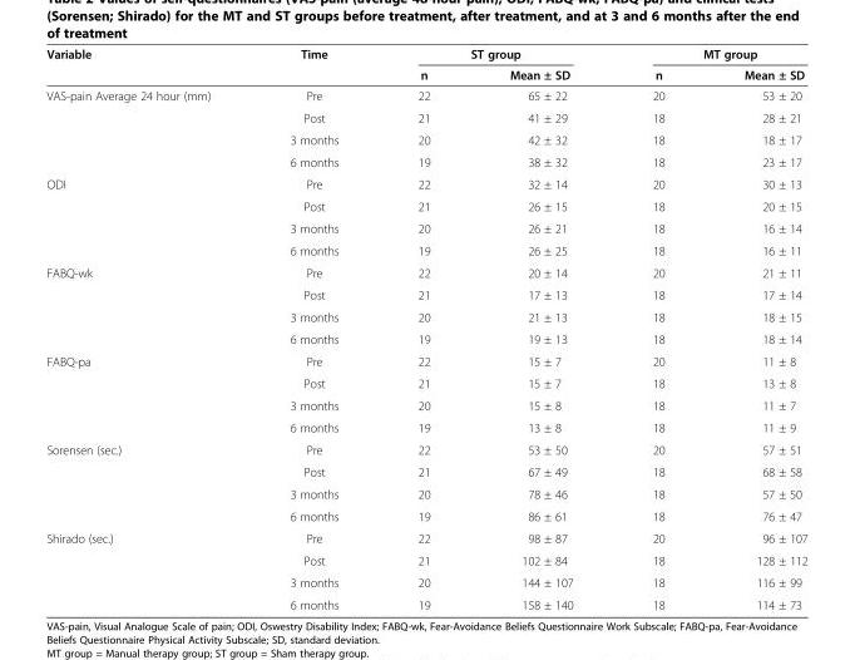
<table><thead><tr><td rowspan="2">Variable</td><td rowspan="2">Time</td><td colspan="2">ST group</td><td colspan="2">MT group</td></tr><tr><td>n</td><td>Mean ± SD</td><td>n</td><td>Mean ± SD</td></tr></thead><tbody><tr><td rowspan="4">VAS-pain Average 24 hour (mm)</td><td>Pre</td><td>22</td><td>65 ± 22</td><td>20</td><td>53 ± 20</td></tr><tr><td>Post</td><td>21</td><td>41 ± 29</td><td>18</td><td>28 ± 21</td></tr><tr><td>3 months</td><td>20</td><td>42 ± 32</td><td>18</td><td>18 ± 17</td></tr><tr><td>6 months</td><td>19</td><td>38 ± 32</td><td>18</td><td>23 ± 17</td></tr><tr><td rowspan="4">ODI</td><td>Pre</td><td>22</td><td>32 ± 14</td><td>20</td><td>30 ± 13</td></tr><tr><td>Post</td><td>21</td><td>26 ± 15</td><td>18</td><td>20 ± 15</td></tr><tr><td>3 months</td><td>20</td><td>26 ± 21</td><td>18</td><td>16 ± 14</td></tr><tr><td>6 months</td><td>19</td><td>26 ± 25</td><td>18</td><td>16 ± 11</td></tr><tr><td rowspan="4">FABQ-wk</td><td>Pre</td><td>22</td><td>20 ± 14</td><td>20</td><td>21 ± 11</td></tr><tr><td>Post</td><td>21</td><td>17 ± 13</td><td>18</td><td>17 ± 14</td></tr><tr><td>3 months</td><td>20</td><td>21 ± 13</td><td>18</td><td>18 ± 15</td></tr><tr><td>6 months</td><td>19</td><td>19 ± 13</td><td>18</td><td>18 ± 14</td></tr><tr><td rowspan="4">FABQ-pa</td><td>Pre</td><td>22</td><td>15 ± 7</td><td>20</td><td>11 ± 8</td></tr><tr><td>Post</td><td>21</td><td>15 ± 7</td><td>18</td><td>13 ± 8</td></tr><tr><td>3 months</td><td>20</td><td>15 ± 8</td><td>18</td><td>11 ± 7</td></tr><tr><td>6 months</td><td>19</td><td>13 ± 8</td><td>18</td><td>11 ± 9</td></tr><tr><td rowspan="4">Sorensen (sec.)</td><td>Pre</td><td>22</td><td>53 ± 50</td><td>20</td><td>57 ± 51</td></tr><tr><td>Post</td><td>21</td><td>67 ± 49</td><td>18</td><td>68 ± 58</td></tr><tr><td>3 months</td><td>20</td><td>78 ± 46</td><td>18</td><td>57 ± 50</td></tr><tr><td>6 months</td><td>19</td><td>86 ± 61</td><td>18</td><td>76 ± 47</td></tr><tr><td rowspan="4">Shirado (sec.)</td><td>Pre</td><td>22</td><td>98 ± 87</td><td>20</td><td>96 ± 107</td></tr><tr><td>Post</td><td>21</td><td>102 ± 84</td><td>18</td><td>128 ± 112</td></tr><tr><td>3 months</td><td>20</td><td>144 ± 107</td><td>18</td><td>116 ± 99</td></tr><tr><td>6 months</td><td>19</td><td>158 ± 140</td><td>18</td><td>114 ± 73</td></tr></tbody></table>